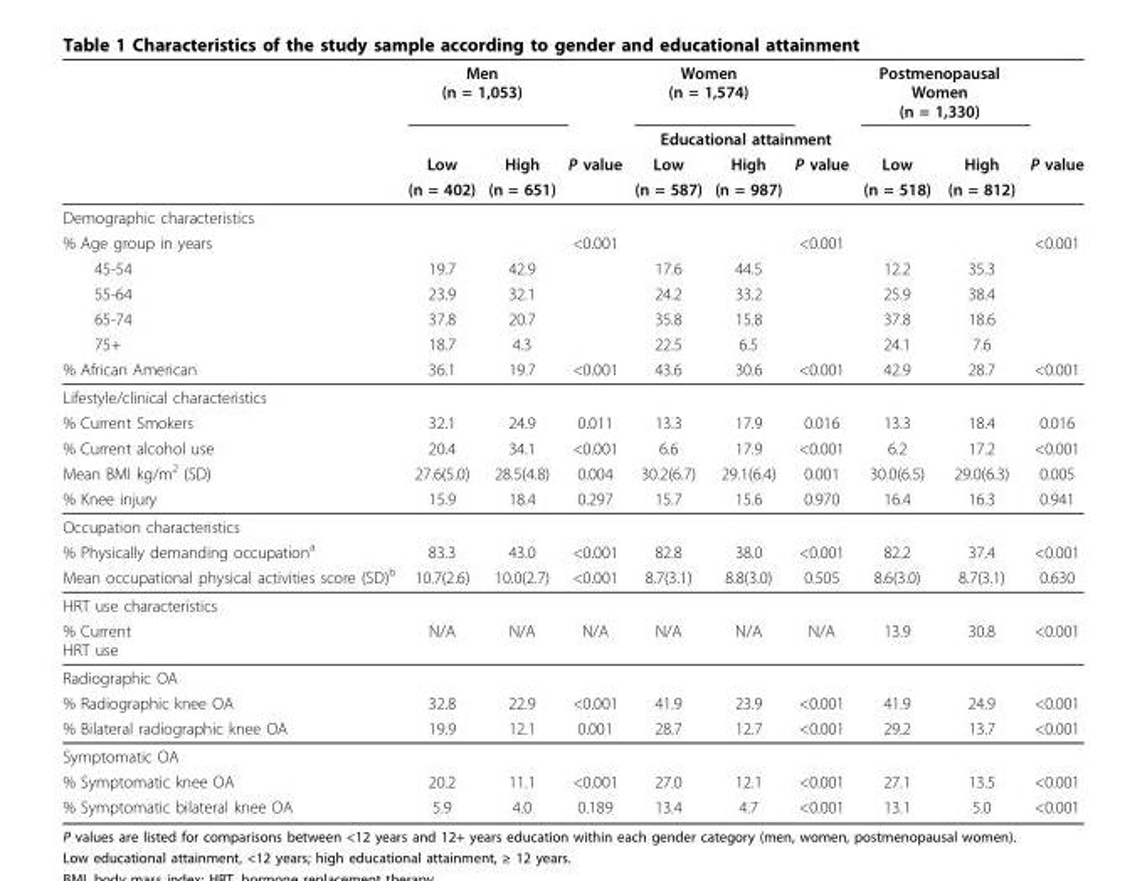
<table><thead><tr><td rowspan="4"></td><td colspan="2">Men (n = 1,053)</td><td></td><td colspan="2">Women (n = 1,574)</td><td></td><td colspan="2">Postmenopausal Women (n = 1,330)</td><td></td></tr><tr><td colspan="9">Educational attainment</td></tr><tr><td rowspan="2">Low (n = 402)</td><td rowspan="2">High (n = 651)</td><td rowspan="2">P value</td><td rowspan="2">Low (n = 587)</td><td rowspan="2">High (n = 987)</td><td rowspan="2">P value</td><td rowspan="2">Low (n = 518)</td><td rowspan="2">High (n = 812)</td><td rowspan="2">P value</td></tr><tr></tr></thead><tbody><tr><td colspan="10">Demographic characteristics</td></tr><tr><td>% Age group in years</td><td></td><td></td><td>&lt;0.001</td><td></td><td></td><td>&lt;0.001</td><td></td><td></td><td>&lt;0.001</td></tr><tr><td>45-54</td><td>19.7</td><td>42.9</td><td></td><td>17.6</td><td>44.5</td><td></td><td>12.2</td><td>35.3</td><td></td></tr><tr><td>55-64</td><td>23.9</td><td>32.1</td><td></td><td>24.2</td><td>33.2</td><td></td><td>25.9</td><td>38.4</td><td></td></tr><tr><td>65-74</td><td>37.8</td><td>20.7</td><td></td><td>35.8</td><td>15.8</td><td></td><td>37.8</td><td>18.6</td><td></td></tr><tr><td>75+</td><td>18.7</td><td>4.3</td><td></td><td>22.5</td><td>6.5</td><td></td><td>24.1</td><td>7.6</td><td></td></tr><tr><td>% African American</td><td>36.1</td><td>19.7</td><td>&lt;0.001</td><td>43.6</td><td>30.6</td><td>&lt;0.001</td><td>42.9</td><td>28.7</td><td>&lt;0.001</td></tr><tr><td colspan="10">Lifestyle/clinical characteristics</td></tr><tr><td>% Current Smokers</td><td>32.1</td><td>24.9</td><td>0.011</td><td>13.3</td><td>17.9</td><td>0.016</td><td>13.3</td><td>18.4</td><td>0.016</td></tr><tr><td>% Current alcohol use</td><td>20.4</td><td>34.1</td><td>&lt;0.001</td><td>6.6</td><td>17.9</td><td>&lt;0.001</td><td>6.2</td><td>17.2</td><td>&lt;0.001</td></tr><tr><td>Mean BMI kg/m<sup>2</sup> (SD)</td><td>27.6(5.0)</td><td>28.5(4.8)</td><td>0.004</td><td>30.2(6.7)</td><td>29.1(6.4)</td><td>0.001</td><td>30.0(6.5)</td><td>29.0(6.3)</td><td>0.005</td></tr><tr><td>% Knee injury</td><td>15.9</td><td>18.4</td><td>0.297</td><td>15.7</td><td>15.6</td><td>0.970</td><td>16.4</td><td>16.3</td><td>0.941</td></tr><tr><td colspan="10">Occupation characteristics</td></tr><tr><td>% Physically demanding occupation<sup>a</sup></td><td>83.3</td><td>43.0</td><td>&lt;0.001</td><td>82.8</td><td>38.0</td><td>&lt;0.001</td><td>82.2</td><td>37.4</td><td>&lt;0.001</td></tr><tr><td>Mean occupational physical activities score (SD)<sup>b</sup></td><td>10.7(2.6)</td><td>10.0(2.7)</td><td>&lt;0.001</td><td>8.7(3.1)</td><td>8.8(3.0)</td><td>0.505</td><td>8.6(3.0)</td><td>8.7(3.1)</td><td>0.630</td></tr><tr><td colspan="10">HRT use characteristics</td></tr><tr><td>% Current HRT use</td><td>N/A</td><td>N/A</td><td>N/A</td><td>N/A</td><td>N/A</td><td>N/A</td><td>13.9</td><td>30.8</td><td>&lt;0.001</td></tr><tr><td colspan="10">Radiographic OA</td></tr><tr><td>% Radiographic knee OA</td><td>32.8</td><td>22.9</td><td>&lt;0.001</td><td>41.9</td><td>23.9</td><td>&lt;0.001</td><td>41.9</td><td>24.9</td><td>&lt;0.001</td></tr><tr><td>% Bilateral radiographic knee OA</td><td>19.9</td><td>12.1</td><td>0.001</td><td>28.7</td><td>12.7</td><td>&lt;0.001</td><td>29.2</td><td>13.7</td><td>&lt;0.001</td></tr><tr><td colspan="10">Symptomatic OA</td></tr><tr><td>% Symptomatic knee OA</td><td>20.2</td><td>11.1</td><td>&lt;0.001</td><td>27.0</td><td>12.1</td><td>&lt;0.001</td><td>27.1</td><td>13.5</td><td>&lt;0.001</td></tr><tr><td>% Symptomatic bilateral knee OA</td><td>5.9</td><td>4.0</td><td>0.189</td><td>13.4</td><td>4.7</td><td>&lt;0.001</td><td>13.1</td><td>5.0</td><td>&lt;0.001</td></tr></tbody></table>